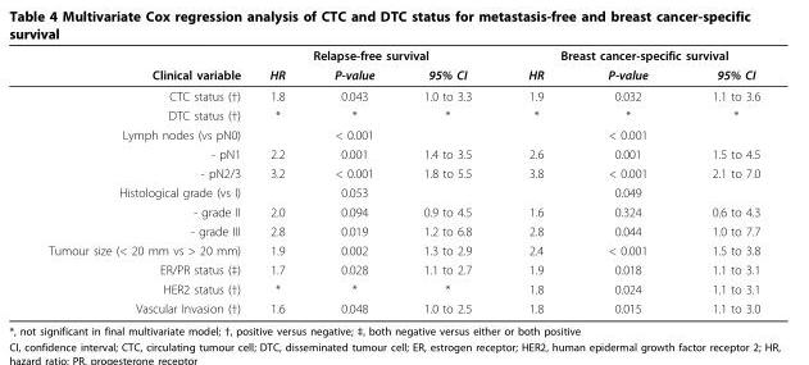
<table><thead><tr><td rowspan="2">Clinical variable</td><td colspan="3">Relapse-free survival</td><td colspan="3">Breast cancer-specific survival</td></tr><tr><td>HR</td><td>P-value</td><td>95% CI</td><td>HR</td><td>P-value</td><td>95% CI</td></tr></thead><tbody><tr><td>CTC status (†)</td><td>1.8</td><td>0.043</td><td>1.0 to 3.3</td><td>1.9</td><td>0.032</td><td>1.1 to 3.6</td></tr><tr><td>DTC status (†)</td><td>*</td><td>*</td><td>*</td><td>*</td><td>*</td><td>*</td></tr><tr><td>Lymph nodes (vs pN0)</td><td></td><td>&lt; 0.001</td><td></td><td></td><td>&lt; 0.001</td><td></td></tr><tr><td>- pN1</td><td>2.2</td><td>0.001</td><td>1.4 to 3.5</td><td>2.6</td><td>0.001</td><td>1.5 to 4.5</td></tr><tr><td>- pN2/3</td><td>3.2</td><td>&lt; 0.001</td><td>1.8 to 5.5</td><td>3.8</td><td>&lt; 0.001</td><td>2.1 to 7.0</td></tr><tr><td>Histological grade (vs I)</td><td></td><td>0.053</td><td></td><td></td><td>0.049</td><td></td></tr><tr><td>- grade II</td><td>2.0</td><td>0.094</td><td>0.9 to 4.5</td><td>1.6</td><td>0.324</td><td>0.6 to 4.3</td></tr><tr><td>- grade III</td><td>2.8</td><td>0.019</td><td>1.2 to 6.8</td><td>2.8</td><td>0.044</td><td>1.0 to 7.7</td></tr><tr><td>Tumour size (&lt; 20 mm vs &gt; 20 mm)</td><td>1.9</td><td>0.002</td><td>1.3 to 2.9</td><td>2.4</td><td>&lt; 0.001</td><td>1.5 to 3.8</td></tr><tr><td>ER/PR status (‡)</td><td>1.7</td><td>0.028</td><td>1.1 to 2.7</td><td>1.9</td><td>0.018</td><td>1.1 to 3.1</td></tr><tr><td>HER2 status (†)</td><td>*</td><td>*</td><td>*</td><td>1.8</td><td>0.024</td><td>1.1 to 3.1</td></tr><tr><td>Vascular Invasion (†)</td><td>1.6</td><td>0.048</td><td>1.0 to 2.5</td><td>1.8</td><td>0.015</td><td>1.1 to 3.0</td></tr></tbody></table>